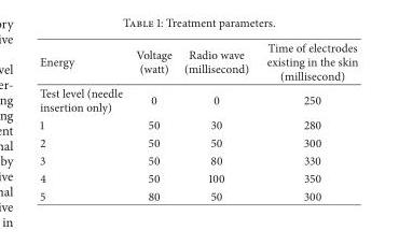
<table><thead><tr><td>Energy</td><td>Voltage (watt)</td><td>Radio wave (millisecond)</td><td>Time of electrodes existing in the skin (millisecond)</td></tr></thead><tbody><tr><td>Test level (needle insertion only)</td><td>0</td><td>0</td><td>250</td></tr><tr><td>1</td><td>50</td><td>30</td><td>280</td></tr><tr><td>2</td><td>50</td><td>50</td><td>300</td></tr><tr><td>3</td><td>50</td><td>80</td><td>330</td></tr><tr><td>4</td><td>50</td><td>100</td><td>350</td></tr><tr><td>5</td><td>80</td><td>50</td><td>300</td></tr></tbody></table>